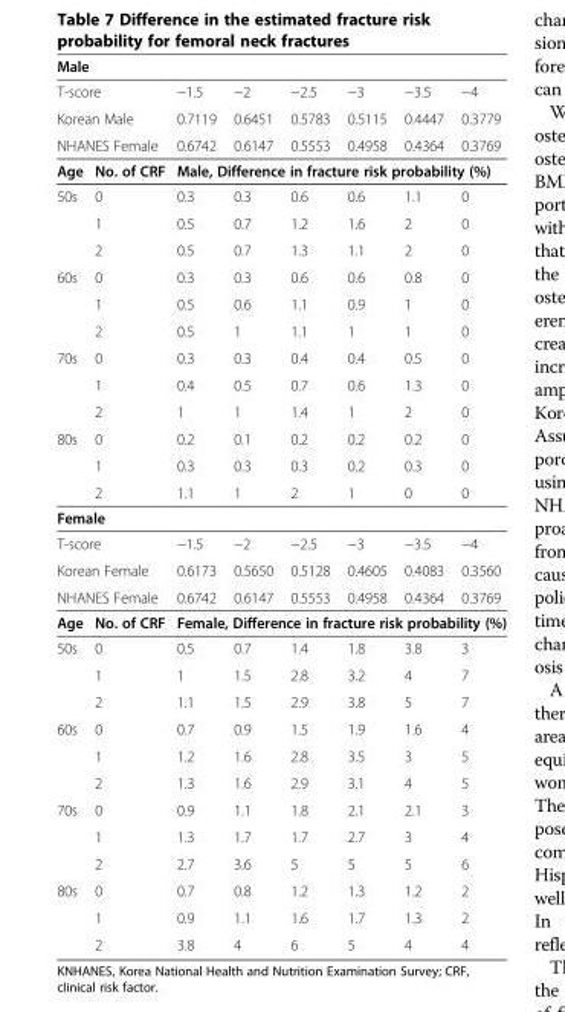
<table><tbody><tr><td colspan="8">Male</td></tr><tr><td colspan="2">T-score</td><td>−1.5</td><td>−2</td><td>−2.5</td><td>−3</td><td>−3.5</td><td>−4</td></tr><tr><td colspan="2">Korean Male</td><td>0.7119</td><td>0.6451</td><td>0.5783</td><td>0.5115</td><td>0.4447</td><td>0.3779</td></tr><tr><td colspan="2">NHANES Female</td><td>0.6742</td><td>0.6147</td><td>0.5553</td><td>0.4958</td><td>0.4364</td><td>0.3769</td></tr><tr><td>Age</td><td>No. of CRF</td><td colspan="6">Male, Difference in fracture risk probability (%)</td></tr><tr><td rowspan="3">50s</td><td>0</td><td>0.3</td><td>0.3</td><td>0.6</td><td>0.6</td><td>1.1</td><td>0</td></tr><tr><td>1</td><td>0.5</td><td>0.7</td><td>1.2</td><td>1.6</td><td>2</td><td>0</td></tr><tr><td>2</td><td>0.5</td><td>0.7</td><td>1.3</td><td>1.1</td><td>2</td><td>0</td></tr><tr><td rowspan="3">60s</td><td>0</td><td>0.3</td><td>0.3</td><td>0.6</td><td>0.6</td><td>0.8</td><td>0</td></tr><tr><td>1</td><td>0.5</td><td>0.6</td><td>1.1</td><td>0.9</td><td>1</td><td>0</td></tr><tr><td>2</td><td>0.5</td><td>1</td><td>1.1</td><td>1</td><td>1</td><td>0</td></tr><tr><td rowspan="3">70s</td><td>0</td><td>0.3</td><td>0.3</td><td>0.4</td><td>0.4</td><td>0.5</td><td>0</td></tr><tr><td>1</td><td>0.4</td><td>0.5</td><td>0.7</td><td>0.6</td><td>1.3</td><td>0</td></tr><tr><td>2</td><td>1</td><td>1</td><td>1.4</td><td>1</td><td>2</td><td>0</td></tr><tr><td rowspan="3">80s</td><td>0</td><td>0.2</td><td>0.1</td><td>0.2</td><td>0.2</td><td>0.2</td><td>0</td></tr><tr><td>1</td><td>0.3</td><td>0.3</td><td>0.3</td><td>0.2</td><td>0.3</td><td>0</td></tr><tr><td>2</td><td>1.1</td><td>1</td><td>2</td><td>1</td><td>0</td><td>0</td></tr><tr><td colspan="8">Female</td></tr><tr><td colspan="2">T-score</td><td>−1.5</td><td>−2</td><td>−2.5</td><td>−3</td><td>−3.5</td><td>−4</td></tr><tr><td colspan="2">Korean Female</td><td>0.6173</td><td>0.5650</td><td>0.5128</td><td>0.4605</td><td>0.4083</td><td>0.3560</td></tr><tr><td colspan="2">NHANES Female</td><td>0.6742</td><td>0.6147</td><td>0.5553</td><td>0.4958</td><td>0.4364</td><td>0.3769</td></tr><tr><td>Age</td><td>No. of CRF</td><td colspan="6">Female, Difference in fracture risk probability (%)</td></tr><tr><td rowspan="3">50s</td><td>0</td><td>0.5</td><td>0.7</td><td>1.4</td><td>1.8</td><td>3.8</td><td>3</td></tr><tr><td>1</td><td>1</td><td>1.5</td><td>2.8</td><td>3.2</td><td>4</td><td>7</td></tr><tr><td>2</td><td>1.1</td><td>1.5</td><td>2.9</td><td>3.8</td><td>5</td><td>7</td></tr><tr><td rowspan="3">60s</td><td>0</td><td>0.7</td><td>0.9</td><td>1.5</td><td>1.9</td><td>1.6</td><td>4</td></tr><tr><td>1</td><td>1.2</td><td>1.6</td><td>2.8</td><td>3.5</td><td>3</td><td>5</td></tr><tr><td>2</td><td>1.3</td><td>1.6</td><td>2.9</td><td>3.1</td><td>4</td><td>5</td></tr><tr><td rowspan="3">70s</td><td>0</td><td>0.9</td><td>1.1</td><td>1.8</td><td>2.1</td><td>2.1</td><td>3</td></tr><tr><td>1</td><td>1.3</td><td>1.7</td><td>1.7</td><td>2.7</td><td>3</td><td>4</td></tr><tr><td>2</td><td>2.7</td><td>3.6</td><td>5</td><td>5</td><td>5</td><td>6</td></tr><tr><td rowspan="3">80s</td><td>0</td><td>0.7</td><td>0.8</td><td>1.2</td><td>1.3</td><td>1.2</td><td>2</td></tr><tr><td>1</td><td>0.9</td><td>1.1</td><td>1.6</td><td>1.7</td><td>1.3</td><td>2</td></tr><tr><td>2</td><td>3.8</td><td>4</td><td>6</td><td>5</td><td>4</td><td>4</td></tr></tbody></table>